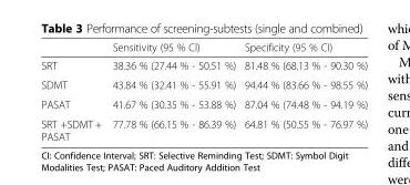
<table><thead><tr><td></td><td>Sensitivity (95 % CI)</td><td>Specificity (95 % CI)</td></tr></thead><tbody><tr><td>SRT</td><td>38.36 % (27.44 % - 50.51 %)</td><td>81.48 % (68.13 % - 90.30 %)</td></tr><tr><td>SDMT</td><td>43.84 % (32.41 % - 55.91 %)</td><td>94.44 % (83.66 % - 98.55 %)</td></tr><tr><td>PASAT</td><td>41.67 % (30.35 % - 53.88 %)</td><td>87.04 % (74.48 % - 94.19 %)</td></tr><tr><td>SRT +SDMT + PASAT</td><td>77.78 % (66.15 % - 86.39 %)</td><td>64.81 % (50.55 % - 76.97 %)</td></tr></tbody></table>